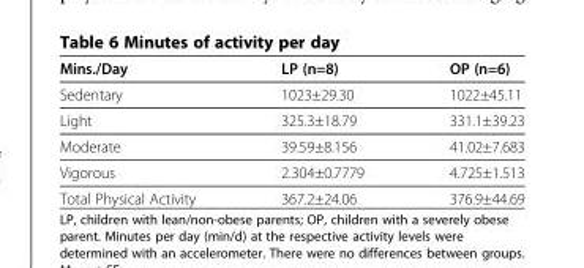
<table><thead><tr><td>Mins./Day</td><td>LP (n=8)</td><td>OP (n=6)</td></tr></thead><tbody><tr><td>Sedentary</td><td>1023±29.30</td><td>1022±45.11</td></tr><tr><td>Light</td><td>325.3±18.79</td><td>331.1±39.23</td></tr><tr><td>Moderate</td><td>39.59±8.156</td><td>41.02±7.683</td></tr><tr><td>Vigorous</td><td>2.304±0.7779</td><td>4.725±1.513</td></tr><tr><td>Total Physical Activity</td><td>367.2±24.06</td><td>376.9±44.69</td></tr></tbody></table>